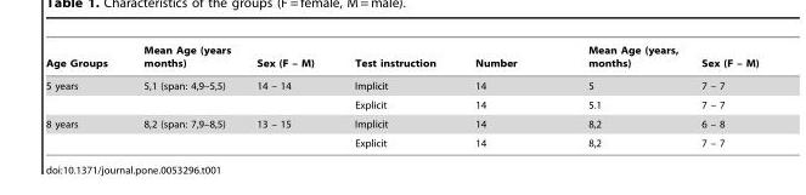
<table><thead><tr><td>Age Groups</td><td>Mean Age (years months)</td><td>Sex (F – M)</td><td>Test instruction</td><td>Number</td><td>Mean Age (years, months)</td><td>Sex (F – M)</td></tr></thead><tbody><tr><td rowspan="2">5 years</td><td>5,1 (span: 4,9–5,5)</td><td>14 – 14</td><td>Implicit</td><td>14</td><td>5</td><td>7 – 7</td></tr><tr><td></td><td></td><td>Explicit</td><td>14</td><td>5.1</td><td>7 – 7</td></tr><tr><td rowspan="2">8 years</td><td>8,2 (span: 7,9–8,5)</td><td>13 – 15</td><td>Implicit</td><td>14</td><td>8,2</td><td>6 – 8</td></tr><tr><td></td><td></td><td>Explicit</td><td>14</td><td>8,2</td><td>7 – 7</td></tr></tbody></table>